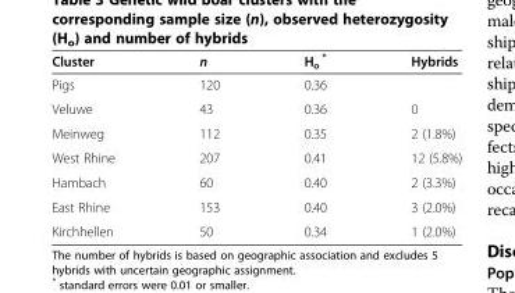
<table><thead><tr><td>Cluster</td><td>n</td><td>H<sub>o</sub> *</td><td>Hybrids</td></tr></thead><tbody><tr><td>Pigs</td><td>120</td><td>0.36</td><td></td></tr><tr><td>Veluwe</td><td>43</td><td>0.36</td><td>0</td></tr><tr><td>Meinweg</td><td>112</td><td>0.35</td><td>2 (1.8%)</td></tr><tr><td>West Rhine</td><td>207</td><td>0.41</td><td>12 (5.8%)</td></tr><tr><td>Hambach</td><td>60</td><td>0.40</td><td>2 (3.3%)</td></tr><tr><td>East Rhine</td><td>153</td><td>0.40</td><td>3 (2.0%)</td></tr><tr><td>Kirchhellen</td><td>50</td><td>0.34</td><td>1 (2.0%)</td></tr></tbody></table>